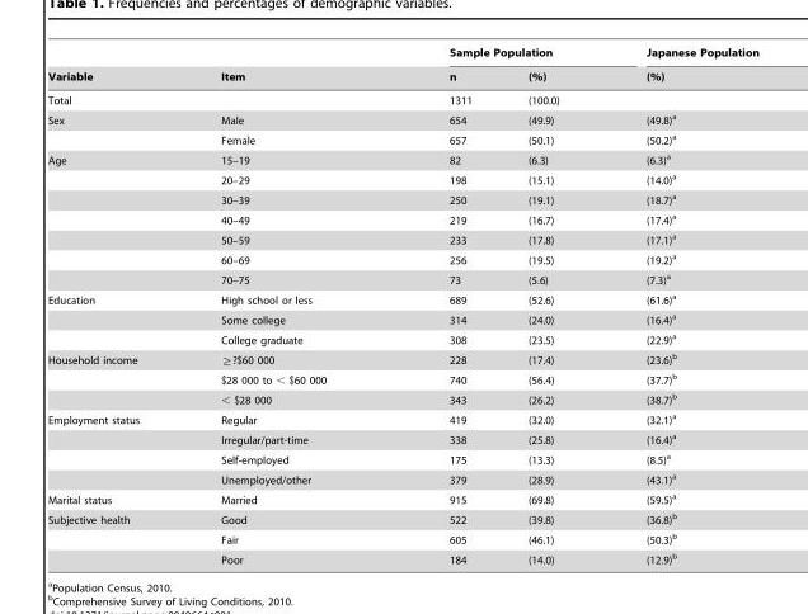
<table><thead><tr><td rowspan="2">Variable</td><td rowspan="2">Item</td><td colspan="2">Sample Population</td><td rowspan="2">Japanese Population (%)</td></tr><tr><td>n</td><td>(%)</td></tr></thead><tbody><tr><td>Total</td><td></td><td>1311</td><td>(100.0)</td><td></td></tr><tr><td rowspan="2">Sex</td><td>Male</td><td>654</td><td>(49.9)</td><td>(49.8)<sup>a</sup></td></tr><tr><td>Female</td><td>657</td><td>(50.1)</td><td>(50.2)<sup>a</sup></td></tr><tr><td rowspan="7">Age</td><td>15–19</td><td>82</td><td>(6.3)</td><td>(6.3)<sup>a</sup></td></tr><tr><td>20–29</td><td>198</td><td>(15.1)</td><td>(14.0)<sup>a</sup></td></tr><tr><td>30–39</td><td>250</td><td>(19.1)</td><td>(18.7)<sup>a</sup></td></tr><tr><td>40–49</td><td>219</td><td>(16.7)</td><td>(17.4)<sup>a</sup></td></tr><tr><td>50–59</td><td>233</td><td>(17.8)</td><td>(17.1)<sup>a</sup></td></tr><tr><td>60–69</td><td>256</td><td>(19.5)</td><td>(19.2)<sup>a</sup></td></tr><tr><td>70–75</td><td>73</td><td>(5.6)</td><td>(7.3)<sup>a</sup></td></tr><tr><td rowspan="3">Education</td><td>High school or less</td><td>689</td><td>(52.6)</td><td>(61.6)<sup>a</sup></td></tr><tr><td>Some college</td><td>314</td><td>(24.0)</td><td>(16.4)<sup>a</sup></td></tr><tr><td>College graduate</td><td>308</td><td>(23.5)</td><td>(22.9)<sup>a</sup></td></tr><tr><td rowspan="3">Household income</td><td>≧?$60 000</td><td>228</td><td>(17.4)</td><td>(23.6)<sup>b</sup></td></tr><tr><td>$28 000 to &lt; $60 000</td><td>740</td><td>(56.4)</td><td>(37.7)<sup>b</sup></td></tr><tr><td>&lt; $28 000</td><td>343</td><td>(26.2)</td><td>(38.7)<sup>b</sup></td></tr><tr><td rowspan="4">Employment status</td><td>Regular</td><td>419</td><td>(32.0)</td><td>(32.1)<sup>a</sup></td></tr><tr><td>Irregular/part-time</td><td>338</td><td>(25.8)</td><td>(16.4)<sup>a</sup></td></tr><tr><td>Self-employed</td><td>175</td><td>(13.3)</td><td>(8.5)<sup>a</sup></td></tr><tr><td>Unemployed/other</td><td>379</td><td>(28.9)</td><td>(43.1)<sup>a</sup></td></tr><tr><td>Marital status</td><td>Married</td><td>915</td><td>(69.8)</td><td>(59.5)<sup>a</sup></td></tr><tr><td rowspan="3">Subjective health</td><td>Good</td><td>522</td><td>(39.8)</td><td>(36.8)<sup>b</sup></td></tr><tr><td>Fair</td><td>605</td><td>(46.1)</td><td>(50.3)<sup>b</sup></td></tr><tr><td>Poor</td><td>184</td><td>(14.0)</td><td>(12.9)<sup>b</sup></td></tr></tbody></table>